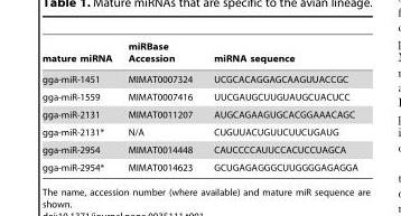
<table><thead><tr><td>mature miRNA</td><td>miRBase Accession</td><td>miRNA sequence</td></tr></thead><tbody><tr><td>gga-miR-1451</td><td>MIMAT0007324</td><td>UCGCACAGGAGCAAGUUACCGC</td></tr><tr><td>gga-miR-1559</td><td>MIMAT0007416</td><td>UUCGAUGCUUGUAUGCUACUCC</td></tr><tr><td>gga-miR-2131</td><td>MIMAT0011207</td><td>AUGCAGAAGUGCACGGAAACAGC</td></tr><tr><td>gga-miR-2131*</td><td>N/A</td><td>CUGUUACUGUUCUUCUGAUG</td></tr><tr><td>gga-miR-2954</td><td>MIMAT0014448</td><td>CAUCCCCAUUCCACUCCUAGCA</td></tr><tr><td>gga-miR-2954*</td><td>MIMAT0014623</td><td>GCUGAGAGGGCUUGGGGAGAGGA</td></tr></tbody></table>